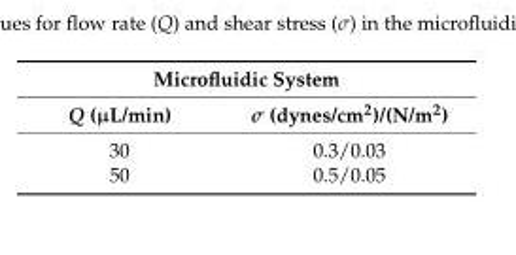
<table><thead><tr><td colspan="2">Microfluidic System</td></tr><tr><td>Q (µL/min)</td><td>σ (dynes/cm<sup>2</sup>)/(N/m<sup>2</sup>)</td></tr></thead><tbody><tr><td>30</td><td>0.3/0.03</td></tr><tr><td>50</td><td>0.5/0.05</td></tr></tbody></table>